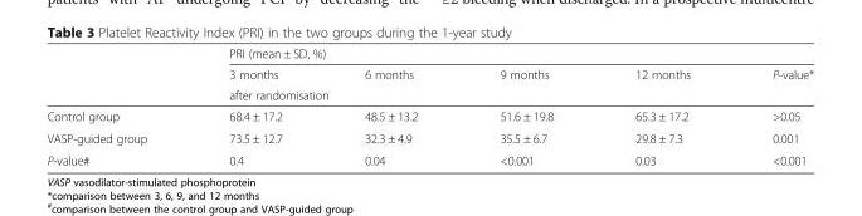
<table><thead><tr><td rowspan="3"></td><td colspan="5">PRI (mean ± SD, %)</td></tr><tr><td>3 months</td><td>6 months</td><td>9 months</td><td>12 months</td><td>P-value*</td></tr><tr><td colspan="5">after randomisation</td></tr></thead><tbody><tr><td>Control group</td><td>68.4 ± 17.2</td><td>48.5 ± 13.2</td><td>51.6 ± 19.8</td><td>65.3 ± 17.2</td><td>&gt;0.05</td></tr><tr><td>VASP-guided group</td><td>73.5 ± 12.7</td><td>32.3 ± 4.9</td><td>35.5 ± 6.7</td><td>29.8 ± 7.3</td><td>0.001</td></tr><tr><td>P-value#</td><td>0.4</td><td>0.04</td><td>&lt;0.001</td><td>0.03</td><td>&lt;0.001</td></tr></tbody></table>